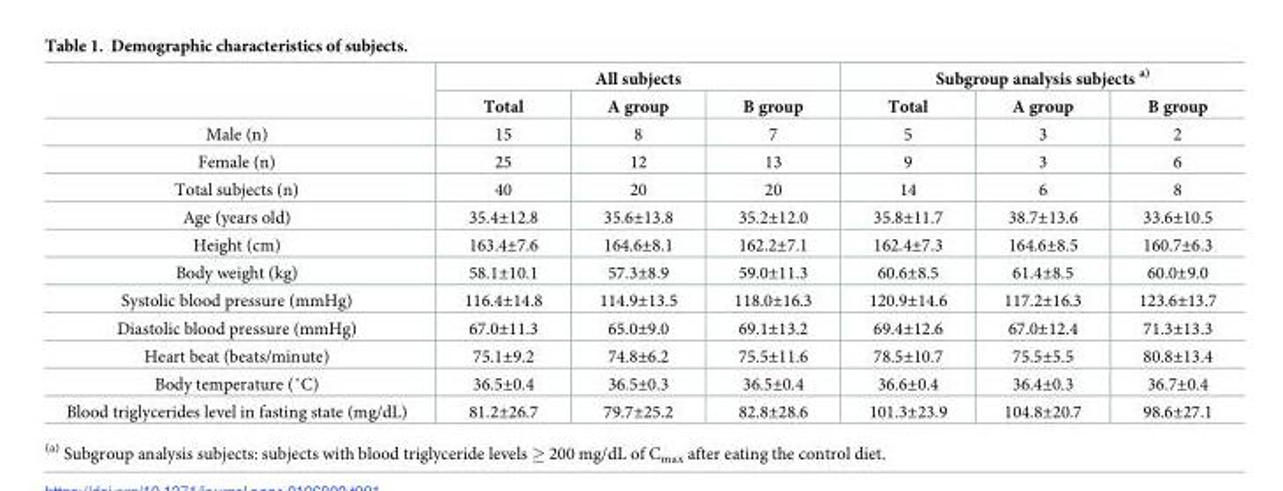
<table><thead><tr><td rowspan="2"></td><td colspan="3">All subjects</td><td colspan="3">Subgroup analysis subjects <sup>a)</sup></td></tr><tr><td>Total</td><td>A group</td><td>B group</td><td>Total</td><td>A group</td><td>B group</td></tr></thead><tbody><tr><td>Male (n)</td><td>15</td><td>8</td><td>7</td><td>5</td><td>3</td><td>2</td></tr><tr><td>Female (n)</td><td>25</td><td>12</td><td>13</td><td>9</td><td>3</td><td>6</td></tr><tr><td>Total subjects (n)</td><td>40</td><td>20</td><td>20</td><td>14</td><td>6</td><td>8</td></tr><tr><td>Age (years old)</td><td>35.4±12.8</td><td>35.6±13.8</td><td>35.2±12.0</td><td>35.8±11.7</td><td>38.7±13.6</td><td>33.6±10.5</td></tr><tr><td>Height (cm)</td><td>163.4±7.6</td><td>164.6±8.1</td><td>162.2±7.1</td><td>162.4±7.3</td><td>164.6±8.5</td><td>160.7±6.3</td></tr><tr><td>Body weight (kg)</td><td>58.1±10.1</td><td>57.3±8.9</td><td>59.0±11.3</td><td>60.6±8.5</td><td>61.4±8.5</td><td>60.0±9.0</td></tr><tr><td>Systolic blood pressure (mmHg)</td><td>116.4±14.8</td><td>114.9±13.5</td><td>118.0±16.3</td><td>120.9±14.6</td><td>117.2±16.3</td><td>123.6±13.7</td></tr><tr><td>Diastolic blood pressure (mmHg)</td><td>67.0±11.3</td><td>65.0±9.0</td><td>69.1±13.2</td><td>69.4±12.6</td><td>67.0±12.4</td><td>71.3±13.3</td></tr><tr><td>Heart beat (beats/minute)</td><td>75.1±9.2</td><td>74.8±6.2</td><td>75.5±11.6</td><td>78.5±10.7</td><td>75.5±5.5</td><td>80.8±13.4</td></tr><tr><td>Body temperature (˚C)</td><td>36.5±0.4</td><td>36.5±0.3</td><td>36.5±0.4</td><td>36.6±0.4</td><td>36.4±0.3</td><td>36.7±0.4</td></tr><tr><td>Blood triglycerides level in fasting state (mg/dL)</td><td>81.2±26.7</td><td>79.7±25.2</td><td>82.8±28.6</td><td>101.3±23.9</td><td>104.8±20.7</td><td>98.6±27.1</td></tr></tbody></table>